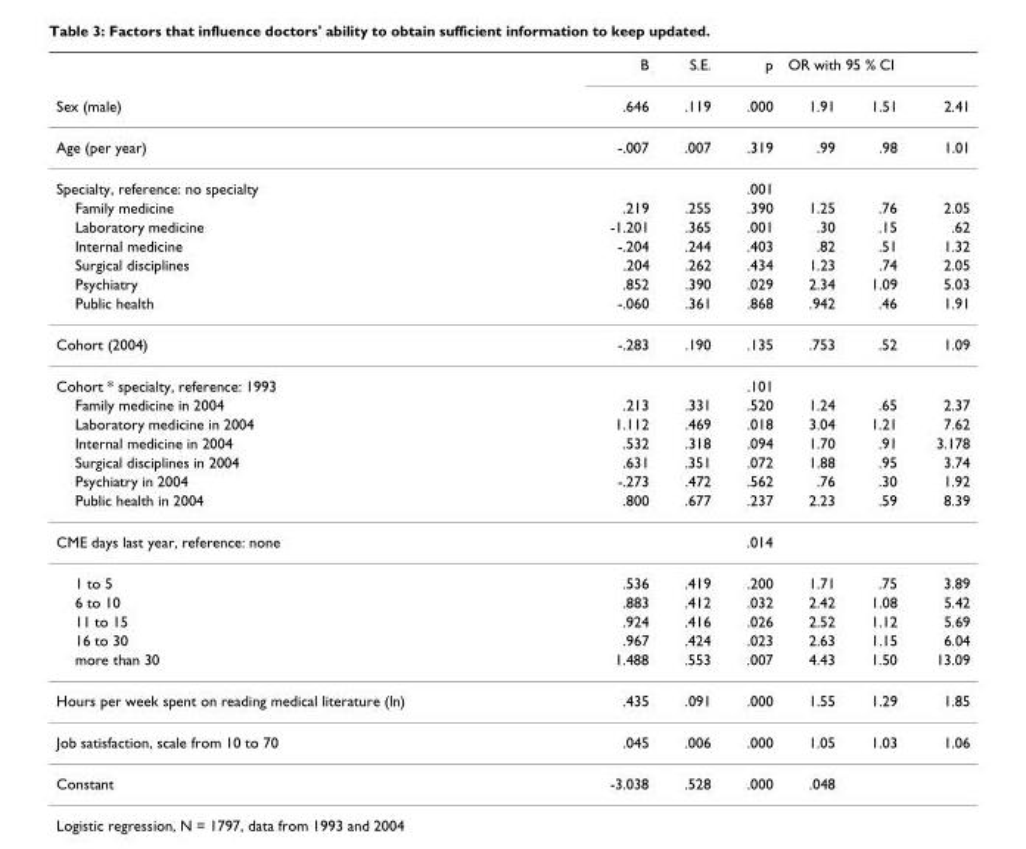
<table><thead><tr><td rowspan="2">Sex (male)</td><td rowspan="2">B .646</td><td rowspan="2">S.E. .119</td><td rowspan="2">p .000</td><td colspan="3">OR with 95 % CI</td></tr><tr><td>1.91</td><td>1.51</td><td>2.41</td></tr></thead><tbody><tr><td>Age (per year)</td><td>-.007</td><td>.007</td><td>.319</td><td>.99</td><td>.98</td><td>1.01</td></tr><tr><td>Specialty, reference: no specialty</td><td></td><td></td><td>.001</td><td></td><td></td><td></td></tr><tr><td>Family medicine</td><td>.219</td><td>.255</td><td>.390</td><td>1.25</td><td>.76</td><td>2.05</td></tr><tr><td>Laboratory medicine</td><td>-1.201</td><td>.365</td><td>.001</td><td>.30</td><td>.15</td><td>.62</td></tr><tr><td>Internal medicine</td><td>-.204</td><td>.244</td><td>.403</td><td>.82</td><td>.51</td><td>1.32</td></tr><tr><td>Surgical disciplines</td><td>.204</td><td>.262</td><td>.434</td><td>1.23</td><td>.74</td><td>2.05</td></tr><tr><td>Psychiatry</td><td>.852</td><td>.390</td><td>.029</td><td>2.34</td><td>1.09</td><td>5.03</td></tr><tr><td>Public health</td><td>-.060</td><td>.361</td><td>.868</td><td>.942</td><td>.46</td><td>1.91</td></tr><tr><td>Cohort (2004)</td><td>-.283</td><td>.190</td><td>.135</td><td>.753</td><td>.52</td><td>1.09</td></tr><tr><td>Cohort * specialty, reference: 1993</td><td></td><td></td><td>.101</td><td></td><td></td><td></td></tr><tr><td>Family medicine in 2004</td><td>.213</td><td>.331</td><td>.520</td><td>1.24</td><td>.65</td><td>2.37</td></tr><tr><td>Laboratory medicine in 2004</td><td>1.112</td><td>.469</td><td>.018</td><td>3.04</td><td>1.21</td><td>7.62</td></tr><tr><td>Internal medicine in 2004</td><td>.532</td><td>.318</td><td>.094</td><td>1.70</td><td>.91</td><td>3.178</td></tr><tr><td>Surgical disciplines in 2004</td><td>.631</td><td>.351</td><td>.072</td><td>1.88</td><td>.95</td><td>3.74</td></tr><tr><td>Psychiatry in 2004</td><td>-.273</td><td>.472</td><td>.562</td><td>.76</td><td>.30</td><td>1.92</td></tr><tr><td>Public health in 2004</td><td>.800</td><td>.677</td><td>.237</td><td>2.23</td><td>.59</td><td>8.39</td></tr><tr><td>CME days last year, reference: none</td><td></td><td></td><td>.014</td><td></td><td></td><td></td></tr><tr><td>1 to 5</td><td>.536</td><td>.419</td><td>.200</td><td>1.71</td><td>.75</td><td>3.89</td></tr><tr><td>6 to 10</td><td>.883</td><td>.412</td><td>.032</td><td>2.42</td><td>1.08</td><td>5.42</td></tr><tr><td>11 to 15</td><td>.924</td><td>.416</td><td>.026</td><td>2.52</td><td>1.12</td><td>5.69</td></tr><tr><td>16 to 30</td><td>.967</td><td>.424</td><td>.023</td><td>2.63</td><td>1.15</td><td>6.04</td></tr><tr><td>more than 30</td><td>1.488</td><td>.553</td><td>.007</td><td>4.43</td><td>1.50</td><td>13.09</td></tr><tr><td>Hours per week spent on reading medical literature (ln)</td><td>.435</td><td>.091</td><td>.000</td><td>1.55</td><td>1.29</td><td>1.85</td></tr><tr><td>Job satisfaction, scale from 10 to 70</td><td>.045</td><td>.006</td><td>.000</td><td>1.05</td><td>1.03</td><td>1.06</td></tr><tr><td>Constant</td><td>-3.038</td><td>.528</td><td>.000</td><td>.048</td><td></td><td></td></tr></tbody></table>